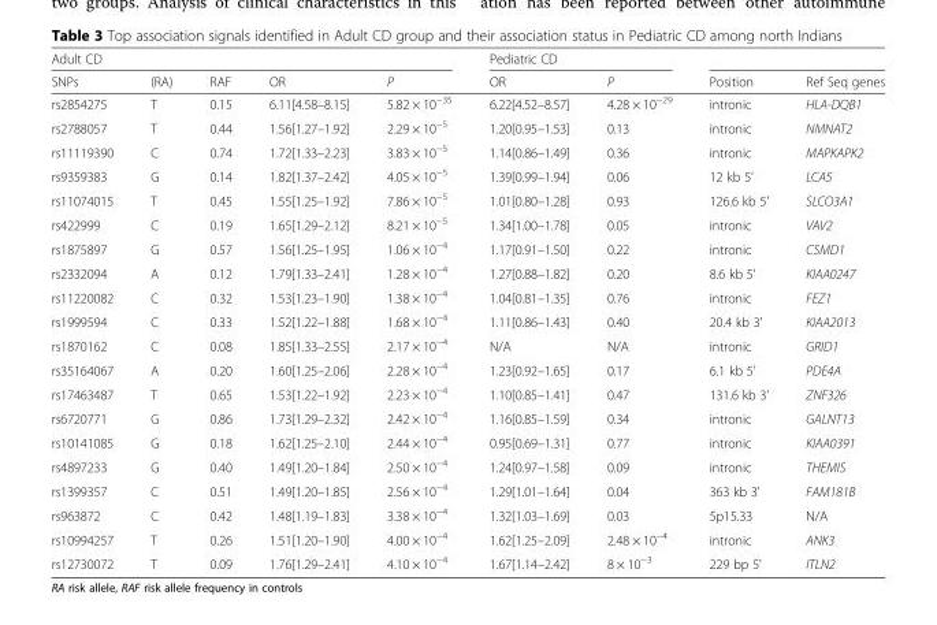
<table><thead><tr><td colspan="5">Adult CD</td><td colspan="2">Pediatric CD</td><td rowspan="2">Position</td><td rowspan="2">Ref Seq genes</td></tr><tr><td>SNPs</td><td>(RA)</td><td>RAF</td><td>OR</td><td>P</td><td>OR</td><td>P</td></tr></thead><tbody><tr><td>rs2854275</td><td>T</td><td>0.15</td><td>6.11[4.58–8.15]</td><td>5.82 × 10<sup>−35</sup></td><td>6.22[4.52–8.57]</td><td>4.28 × 10<sup>−29</sup></td><td>intronic</td><td>HLA-DQB1</td></tr><tr><td>rs2788057</td><td>T</td><td>0.44</td><td>1.56[1.27–1.92]</td><td>2.29 × 10<sup>−5</sup></td><td>1.20[0.95–1.53]</td><td>0.13</td><td>intronic</td><td>NMNAT2</td></tr><tr><td>rs11119390</td><td>C</td><td>0.74</td><td>1.72[1.33–2.23]</td><td>3.83 × 10<sup>−5</sup></td><td>1.14[0.86–1.49]</td><td>0.36</td><td>intronic</td><td>MAPKAPK2</td></tr><tr><td>rs9359383</td><td>G</td><td>0.14</td><td>1.82[1.37–2.42]</td><td>4.05 × 10<sup>−5</sup></td><td>1.39[0.99–1.94]</td><td>0.06</td><td>12 kb 5’</td><td>LCA5</td></tr><tr><td>rs11074015</td><td>T</td><td>0.45</td><td>1.55[1.25–1.92]</td><td>7.86 × 10<sup>−5</sup></td><td>1.01[0.80–1.28]</td><td>0.93</td><td>126.6 kb 5&#x27;</td><td>SLCO3A1</td></tr><tr><td>rs422999</td><td>C</td><td>0.19</td><td>1.65[1.29–2.12]</td><td>8.21 × 10<sup>−5</sup></td><td>1.34[1.00–1.78]</td><td>0.05</td><td>intronic</td><td>VAV2</td></tr><tr><td>rs1875897</td><td>G</td><td>0.57</td><td>1.56[1.25–1.95]</td><td>1.06 × 10<sup>−4</sup></td><td>1.17[0.91–1.50]</td><td>0.22</td><td>intronic</td><td>CSMD1</td></tr><tr><td>rs2332094</td><td>A</td><td>0.12</td><td>1.79[1.33–2.41]</td><td>1.28 × 10<sup>−4</sup></td><td>1.27[0.88–1.82]</td><td>0.20</td><td>8.6 kb 5&#x27;</td><td>KIAA0247</td></tr><tr><td>rs11220082</td><td>C</td><td>0.32</td><td>1.53[1.23–1.90]</td><td>1.38 × 10<sup>−4</sup></td><td>1.04[0.81–1.35]</td><td>0.76</td><td>intronic</td><td>FEZ1</td></tr><tr><td>rs1999594</td><td>C</td><td>0.33</td><td>1.52[1.22–1.88]</td><td>1.68 × 10<sup>−4</sup></td><td>1.11[0.86–1.43]</td><td>0.40</td><td>20.4 kb 3&#x27;</td><td>KIAA2013</td></tr><tr><td>rs1870162</td><td>C</td><td>0.08</td><td>1.85[1.33–2.55]</td><td>2.17 × 10<sup>−4</sup></td><td>N/A</td><td>N/A</td><td>intronic</td><td>GRID1</td></tr><tr><td>rs35164067</td><td>A</td><td>0.20</td><td>1.60[1.25–2.06]</td><td>2.28 × 10<sup>−4</sup></td><td>1.23[0.92–1.65]</td><td>0.17</td><td>6.1 kb 5&#x27;</td><td>PDE4A</td></tr><tr><td>rs17463487</td><td>T</td><td>0.65</td><td>1.53[1.22–1.92]</td><td>2.23 × 10<sup>−4</sup></td><td>1.10[0.85–1.41]</td><td>0.47</td><td>131.6 kb 3&#x27;</td><td>ZNF326</td></tr><tr><td>rs6720771</td><td>G</td><td>0.86</td><td>1.73[1.29–2.32]</td><td>2.42 × 10<sup>−4</sup></td><td>1.16[0.85–1.59]</td><td>0.34</td><td>intronic</td><td>GALNT13</td></tr><tr><td>rs10141085</td><td>G</td><td>0.18</td><td>1.62[1.25–2.10]</td><td>2.44 × 10<sup>−4</sup></td><td>0.95[0.69–1.31]</td><td>0.77</td><td>intronic</td><td>KIAA0391</td></tr><tr><td>rs4897233</td><td>G</td><td>0.40</td><td>1.49[1.20–1.84]</td><td>2.50 × 10<sup>−4</sup></td><td>1.24[0.97–1.58]</td><td>0.09</td><td>intronic</td><td>THEMIS</td></tr><tr><td>rs1399357</td><td>C</td><td>0.51</td><td>1.49[1.20–1.85]</td><td>2.56 × 10<sup>−4</sup></td><td>1.29[1.01–1.64]</td><td>0.04</td><td>363 kb 3&#x27;</td><td>FAM181B</td></tr><tr><td>rs963872</td><td>C</td><td>0.42</td><td>1.48[1.19–1.83]</td><td>3.38 × 10<sup>−4</sup></td><td>1.32[1.03–1.69]</td><td>0.03</td><td>5p15.33</td><td>N/A</td></tr><tr><td>rs10994257</td><td>T</td><td>0.26</td><td>1.51[1.20–1.90]</td><td>4.00 × 10<sup>−4</sup></td><td>1.62[1.25–2.09]</td><td>2.48 × 10<sup>−4</sup></td><td>intronic</td><td>ANK3</td></tr><tr><td>rs12730072</td><td>T</td><td>0.09</td><td>1.76[1.29–2.41]</td><td>4.10 × 10<sup>−4</sup></td><td>1.67[1.14–2.42]</td><td>8 × 10<sup>−3</sup></td><td>229 bp 5&#x27;</td><td>ITLN2</td></tr></tbody></table>